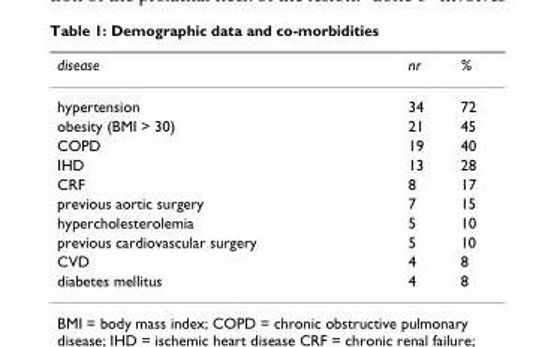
<table><thead><tr><td>disease</td><td>nr</td><td>%</td></tr></thead><tbody><tr><td>hypertension</td><td>34</td><td>72</td></tr><tr><td>obesity (BMI &gt; 30)</td><td>21</td><td>45</td></tr><tr><td>COPD</td><td>19</td><td>40</td></tr><tr><td>IHD</td><td>13</td><td>28</td></tr><tr><td>CRF</td><td>8</td><td>17</td></tr><tr><td>previous aortic surgery</td><td>7</td><td>15</td></tr><tr><td>hypercholesterolemia</td><td>5</td><td>10</td></tr><tr><td>previous cardiovascular surgery</td><td>5</td><td>10</td></tr><tr><td>CVD</td><td>4</td><td>8</td></tr><tr><td>diabetes mellitus</td><td>4</td><td>8</td></tr></tbody></table>